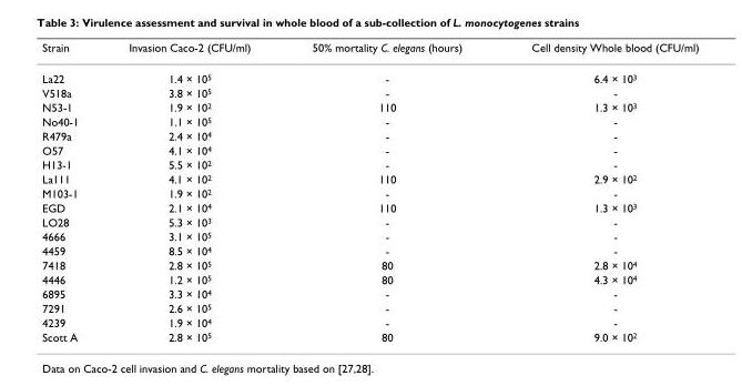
<table><thead><tr><td>Strain</td><td>Invasion Caco-2 (CFU/ml)</td><td>50% mortality C. elegans (hours)</td><td>Cell density Whole blood (CFU/ml)</td></tr></thead><tbody><tr><td>La22</td><td>1.4 × 10<sup>5</sup></td><td>-</td><td>6.4 × 10<sup>3</sup></td></tr><tr><td>V518a</td><td>3.8 × 10<sup>5</sup></td><td>-</td><td>-</td></tr><tr><td>N53-1</td><td>1.9 × 10<sup>2</sup></td><td>110</td><td>1.3 × 10<sup>3</sup></td></tr><tr><td>No40-1</td><td>1.1 × 10<sup>5</sup></td><td>-</td><td>-</td></tr><tr><td>R479a</td><td>2.4 × 10<sup>4</sup></td><td>-</td><td>-</td></tr><tr><td>O57</td><td>4.1 × 10<sup>4</sup></td><td>-</td><td>-</td></tr><tr><td>H13-1</td><td>5.5 × 10<sup>2</sup></td><td>-</td><td>-</td></tr><tr><td>La111</td><td>4.1 × 10<sup>2</sup></td><td>110</td><td>2.9 × 10<sup>2</sup></td></tr><tr><td>M103-1</td><td>1.9 × 10<sup>2</sup></td><td>-</td><td>-</td></tr><tr><td>EGD</td><td>2.1 × 10<sup>4</sup></td><td>110</td><td>1.3 × 10<sup>3</sup></td></tr><tr><td>LO28</td><td>5.3 × 10<sup>3</sup></td><td>-</td><td>-</td></tr><tr><td>4666</td><td>3.1 × 10<sup>5</sup></td><td>-</td><td>-</td></tr><tr><td>4459</td><td>8.5 × 10<sup>4</sup></td><td>-</td><td>-</td></tr><tr><td>7418</td><td>2.8 × 10<sup>5</sup></td><td>80</td><td>2.8 × 10<sup>4</sup></td></tr><tr><td>4446</td><td>1.2 × 10<sup>5</sup></td><td>80</td><td>4.3 × 10<sup>4</sup></td></tr><tr><td>6895</td><td>3.3 × 10<sup>4</sup></td><td>-</td><td>-</td></tr><tr><td>7291</td><td>2.6 × 10<sup>5</sup></td><td>-</td><td>-</td></tr><tr><td>4239</td><td>1.9 × 10<sup>4</sup></td><td>-</td><td>-</td></tr><tr><td>Scott A</td><td>2.8 × 10<sup>5</sup></td><td>80</td><td>9.0 × 10<sup>2</sup></td></tr></tbody></table>